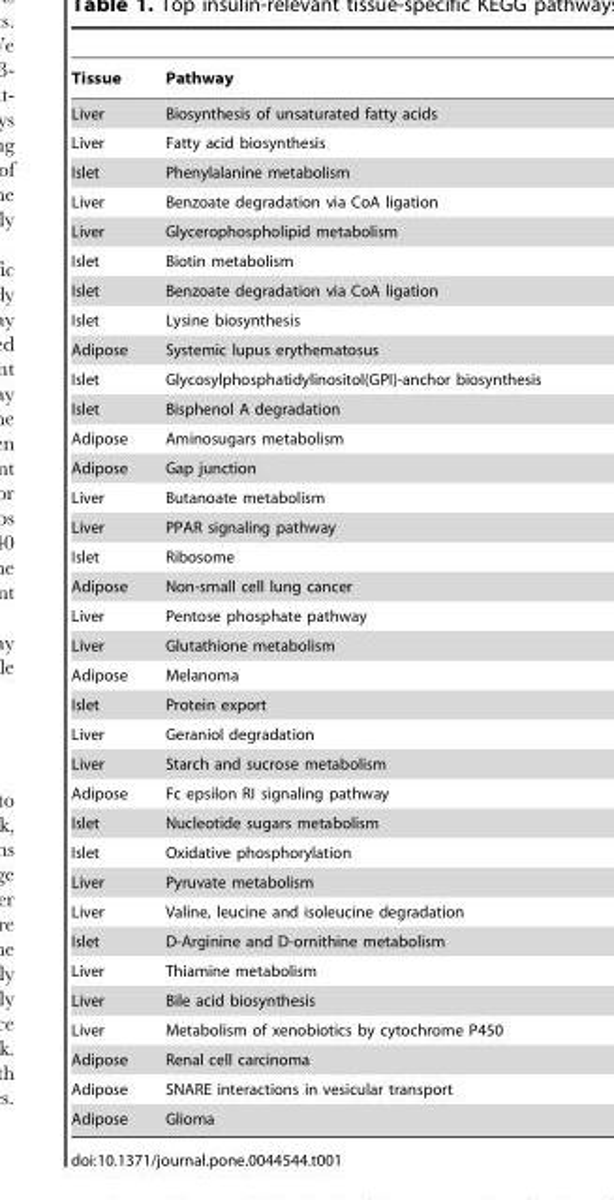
<table><thead><tr><td>Tissue</td><td>Pathway</td></tr></thead><tbody><tr><td>Liver</td><td>Biosynthesis of unsaturated fatty acids</td></tr><tr><td>Liver</td><td>Fatty acid biosynthesis</td></tr><tr><td>Islet</td><td>Phenylalanine metabolism</td></tr><tr><td>Liver</td><td>Benzoate degradation via CoA ligation</td></tr><tr><td>Liver</td><td>Glycerophospholipid metabolism</td></tr><tr><td>Islet</td><td>Biotin metabolism</td></tr><tr><td>Islet</td><td>Benzoate degradation via CoA ligation</td></tr><tr><td>Islet</td><td>Lysine biosynthesis</td></tr><tr><td>Adipose</td><td>Systemic lupus erythematosus</td></tr><tr><td>Islet</td><td>Glycosylphosphatidylinositol(GPI)-anchor biosynthesis</td></tr><tr><td>Islet</td><td>Bisphenol A degradation</td></tr><tr><td>Adipose</td><td>Aminosugars metabolism</td></tr><tr><td>Adipose</td><td>Gap junction</td></tr><tr><td>Liver</td><td>Butanoate metabolism</td></tr><tr><td>Liver</td><td>PPAR signaling pathway</td></tr><tr><td>Islet</td><td>Ribosome</td></tr><tr><td>Adipose</td><td>Non-small cell lung cancer</td></tr><tr><td>Liver</td><td>Pentose phosphate pathway</td></tr><tr><td>Liver</td><td>Glutathione metabolism</td></tr><tr><td>Adipose</td><td>Melanoma</td></tr><tr><td>Islet</td><td>Protein export</td></tr><tr><td>Liver</td><td>Geraniol degradation</td></tr><tr><td>Liver</td><td>Starch and sucrose metabolism</td></tr><tr><td>Adipose</td><td>Fc epsilon RI signaling pathway</td></tr><tr><td>Islet</td><td>Nucleotide sugars metabolism</td></tr><tr><td>Islet</td><td>Oxidative phosphorylation</td></tr><tr><td>Liver</td><td>Pyruvate metabolism</td></tr><tr><td>Liver</td><td>Valine, leucine and isoleucine degradation</td></tr><tr><td>Islet</td><td>D-Arginine and D-ornithine metabolism</td></tr><tr><td>Liver</td><td>Thiamine metabolism</td></tr><tr><td>Liver</td><td>Bile acid biosynthesis</td></tr><tr><td>Liver</td><td>Metabolism of xenobiotics by cytochrome P450</td></tr><tr><td>Adipose</td><td>Renal cell carcinoma</td></tr><tr><td>Adipose</td><td>SNARE interactions in vesicular transport</td></tr><tr><td>Adipose</td><td>Glioma</td></tr></tbody></table>